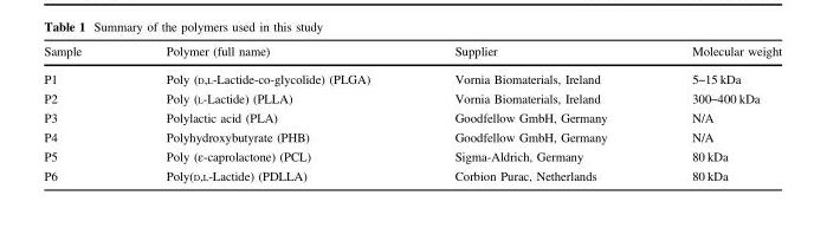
<table><thead><tr><td>Sample</td><td>Polymer (full name)</td><td>Supplier</td><td>Molecular weight</td></tr></thead><tbody><tr><td>P1</td><td>Poly (D,L-Lactide-co-glycolide) (PLGA)</td><td>Vornia Biomaterials, Ireland</td><td>5–15 kDa</td></tr><tr><td>P2</td><td>Poly (L-Lactide) (PLLA)</td><td>Vornia Biomaterials, Ireland</td><td>300–400 kDa</td></tr><tr><td>P3</td><td>Polylactic acid (PLA)</td><td>Goodfellow GmbH, Germany</td><td>N/A</td></tr><tr><td>P4</td><td>Polyhydroxybutyrate (PHB)</td><td>Goodfellow GmbH, Germany</td><td>N/A</td></tr><tr><td>P5</td><td>Poly (ε-caprolactone) (PCL)</td><td>Sigma-Aldrich, Germany</td><td>80 kDa</td></tr><tr><td>P6</td><td>Poly(D,L-Lactide) (PDLLA)</td><td>Corbion Purac, Netherlands</td><td>80 kDa</td></tr></tbody></table>